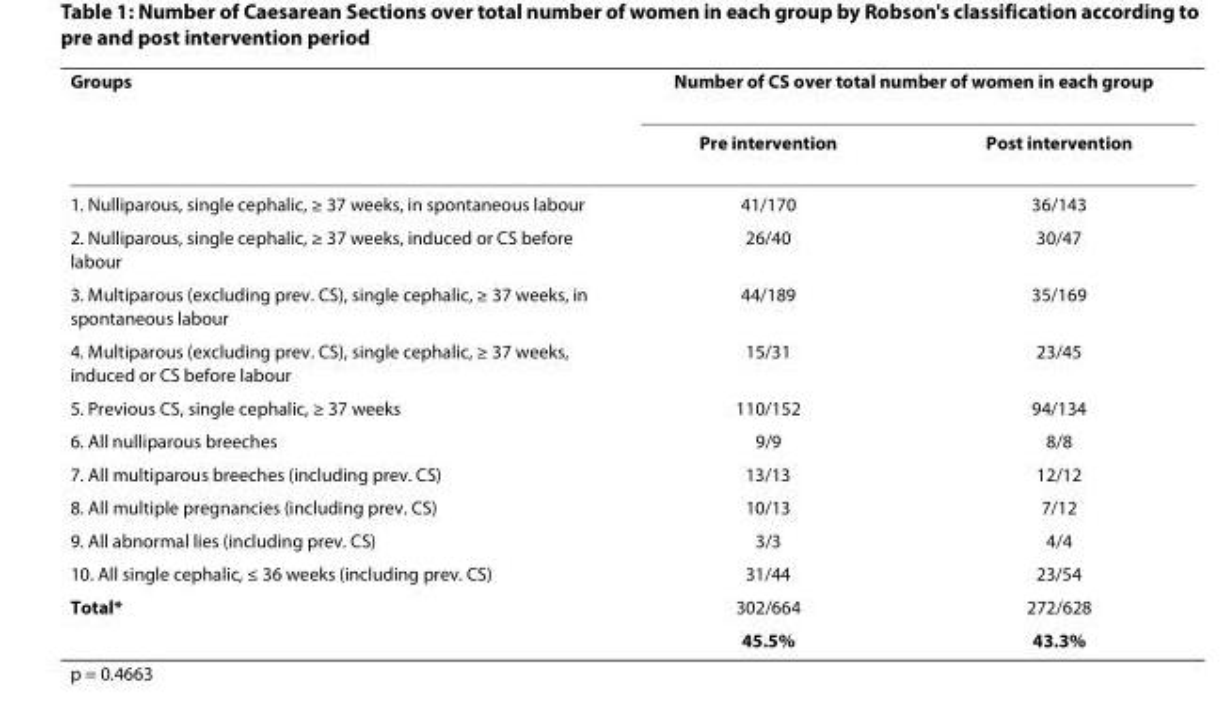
<table><thead><tr><td rowspan="2">Groups</td><td colspan="2">Number of CS over total number of women in each group</td></tr><tr><td>Pre intervention</td><td>Post intervention</td></tr></thead><tbody><tr><td>1. Nulliparous, single cephalic, ≥ 37 weeks, in spontaneous labour</td><td>41/170</td><td>36/143</td></tr><tr><td>2. Nulliparous, single cephalic, ≥ 37 weeks, induced or CS before labour</td><td>26/40</td><td>30/47</td></tr><tr><td>3. Multiparous (excluding prev. CS), single cephalic, ≥ 37 weeks, in spontaneous labour</td><td>44/189</td><td>35/169</td></tr><tr><td>4. Multiparous (excluding prev. CS), single cephalic, ≥ 37 weeks, induced or CS before labour</td><td>15/31</td><td>23/45</td></tr><tr><td>5. Previous CS, single cephalic, ≥ 37 weeks</td><td>110/152</td><td>94/134</td></tr><tr><td>6. All nulliparous breeches</td><td>9/9</td><td>8/8</td></tr><tr><td>7. All multiparous breeches (including prev. CS)</td><td>13/13</td><td>12/12</td></tr><tr><td>8. All multiple pregnancies (including prev. CS)</td><td>10/13</td><td>7/12</td></tr><tr><td>9. All abnormal lies (including prev. CS)</td><td>3/3</td><td>4/4</td></tr><tr><td>10. All single cephalic, ≤ 36 weeks (including prev. CS)</td><td>31/44</td><td>23/54</td></tr><tr><td rowspan="2">Total*</td><td>302/664</td><td>272/628</td></tr><tr><td>45.5%</td><td>43.3%</td></tr></tbody></table>